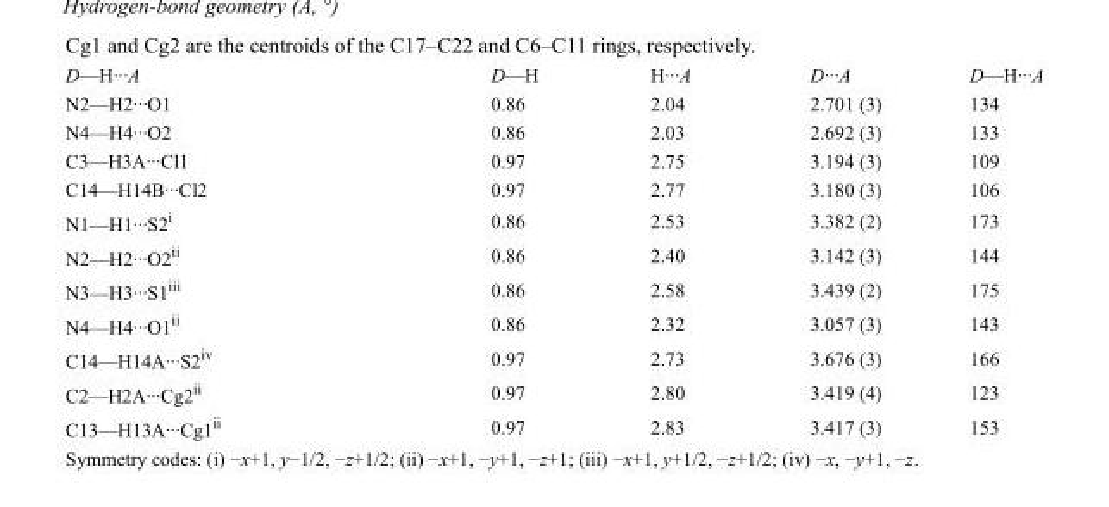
<table><tbody><tr><td>D—H···A</td><td>D—H</td><td>H···A</td><td>D···A</td><td>D—H···A</td></tr><tr><td>N2—H2···O1</td><td>0.86</td><td>2.04</td><td>2.701 (3)</td><td>134</td></tr><tr><td>N4—H4···O2</td><td>0.86</td><td>2.03</td><td>2.692 (3)</td><td>133</td></tr><tr><td>C3—H3A···Cl1</td><td>0.97</td><td>2.75</td><td>3.194 (3)</td><td>109</td></tr><tr><td>C14—H14B···Cl2</td><td>0.97</td><td>2.77</td><td>3.180 (3)</td><td>106</td></tr><tr><td>N1—H1···S2<sup>i</sup></td><td>0.86</td><td>2.53</td><td>3.382 (2)</td><td>173</td></tr><tr><td>N2—H2···O2<sup>ii</sup></td><td>0.86</td><td>2.40</td><td>3.142 (3)</td><td>144</td></tr><tr><td>N3—H3···S1<sup>iii</sup></td><td>0.86</td><td>2.58</td><td>3.439 (2)</td><td>175</td></tr><tr><td>N4—H4···O1<sup>ii</sup></td><td>0.86</td><td>2.32</td><td>3.057 (3)</td><td>143</td></tr><tr><td>C14—H14A···S2<sup>iv</sup></td><td>0.97</td><td>2.73</td><td>3.676 (3)</td><td>166</td></tr><tr><td>C2—H2A···Cg2<sup>ii</sup></td><td>0.97</td><td>2.80</td><td>3.419 (4)</td><td>123</td></tr><tr><td>C13—H13A···Cg1<sup>ii</sup></td><td>0.97</td><td>2.83</td><td>3.417 (3)</td><td>153</td></tr></tbody></table>